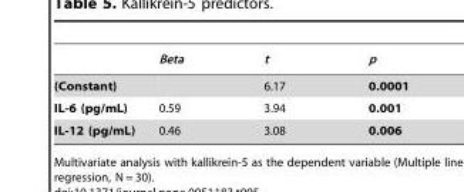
<table><thead><tr><td></td><td>Beta</td><td>t</td><td>p</td></tr></thead><tbody><tr><td>(Constant)</td><td></td><td>6.17</td><td>0.0001</td></tr><tr><td>IL-6 (pg/mL)</td><td>0.59</td><td>3.94</td><td>0.001</td></tr><tr><td>IL-12 (pg/mL)</td><td>0.46</td><td>3.08</td><td>0.006</td></tr></tbody></table>